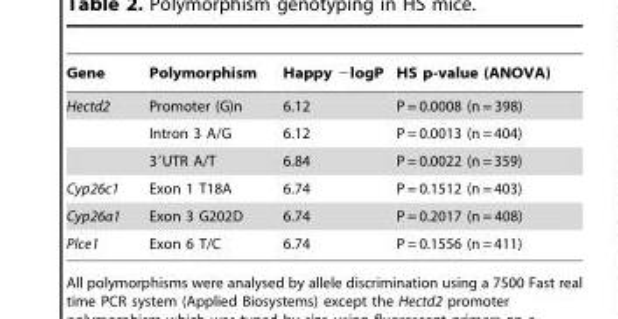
<table><thead><tr><td>Gene</td><td>Polymorphism</td><td>Happy −logP</td><td>HS p-value (ANOVA)</td></tr></thead><tbody><tr><td rowspan="3">Hectd2</td><td>Promoter (G)n</td><td>6.12</td><td>P = 0.0008 (n = 398)</td></tr><tr><td>Intron 3 A/G</td><td>6.12</td><td>P = 0.0013 (n = 404)</td></tr><tr><td>3′UTR A/T</td><td>6.84</td><td>P = 0.0022 (n = 359)</td></tr><tr><td>Cyp26c1</td><td>Exon 1 T18A</td><td>6.74</td><td>P = 0.1512 (n = 403)</td></tr><tr><td>Cyp26a1</td><td>Exon 3 G202D</td><td>6.74</td><td>P = 0.2017 (n = 408)</td></tr><tr><td>Plce1</td><td>Exon 6 T/C</td><td>6.74</td><td>P = 0.1556 (n = 411)</td></tr></tbody></table>